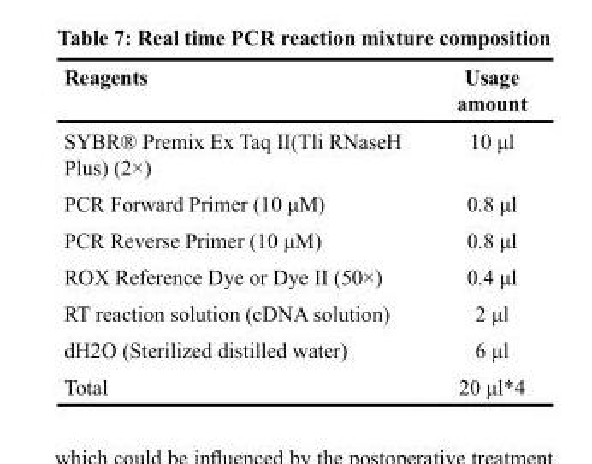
<table><thead><tr><td>Reagents</td><td>Usage amount</td></tr></thead><tbody><tr><td>SYBR® Premix Ex Taq II(Tli RNaseH Plus) (2×)</td><td>10 μl</td></tr><tr><td>PCR Forward Primer (10 μM)</td><td>0.8 μl</td></tr><tr><td>PCR Reverse Primer (10 μM)</td><td>0.8 μl</td></tr><tr><td>ROX Reference Dye or Dye II (50×)</td><td>0.4 μl</td></tr><tr><td>RT reaction solution (cDNA solution)</td><td>2 μl</td></tr><tr><td>dH2O (Sterilized distilled water)</td><td>6 μl</td></tr><tr><td>Total</td><td>20 μl*4</td></tr></tbody></table>